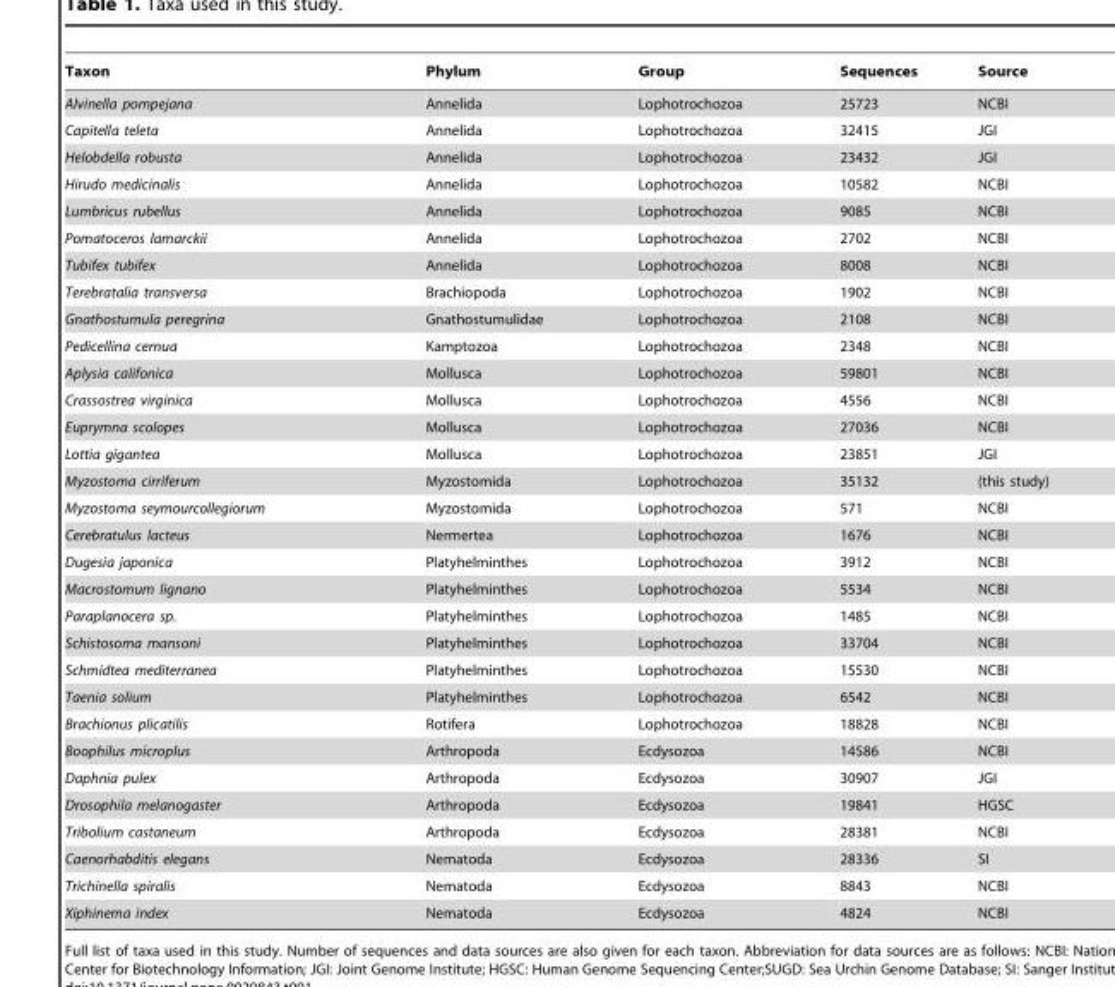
<table><thead><tr><td>Taxon</td><td>Phylum</td><td>Group</td><td>Sequences</td><td>Source</td></tr></thead><tbody><tr><td>Alvinella pompejana</td><td>Annelida</td><td>Lophotrochozoa</td><td>25723</td><td>NCBI</td></tr><tr><td>Capitella teleta</td><td>Annelida</td><td>Lophotrochozoa</td><td>32415</td><td>JGI</td></tr><tr><td>Helobdella robusta</td><td>Annelida</td><td>Lophotrochozoa</td><td>23432</td><td>JGI</td></tr><tr><td>Hirudo medicinalis</td><td>Annelida</td><td>Lophotrochozoa</td><td>10582</td><td>NCBI</td></tr><tr><td>Lumbricus rubellus</td><td>Annelida</td><td>Lophotrochozoa</td><td>9085</td><td>NCBI</td></tr><tr><td>Pomatoceros lamarckii</td><td>Annelida</td><td>Lophotrochozoa</td><td>2702</td><td>NCBI</td></tr><tr><td>Tubifex tubifex</td><td>Annelida</td><td>Lophotrochozoa</td><td>8008</td><td>NCBI</td></tr><tr><td>Terebratalia transversa</td><td>Brachiopoda</td><td>Lophotrochozoa</td><td>1902</td><td>NCBI</td></tr><tr><td>Gnathostumula peregrina</td><td>Gnathostumulidae</td><td>Lophotrochozoa</td><td>2108</td><td>NCBI</td></tr><tr><td>Pedicellina cernua</td><td>Kamptozoa</td><td>Lophotrochozoa</td><td>2348</td><td>NCBI</td></tr><tr><td>Aplysia califonica</td><td>Mollusca</td><td>Lophotrochozoa</td><td>59801</td><td>NCBI</td></tr><tr><td>Crassostrea virginica</td><td>Mollusca</td><td>Lophotrochozoa</td><td>4556</td><td>NCBI</td></tr><tr><td>Euprymna scolopes</td><td>Mollusca</td><td>Lophotrochozoa</td><td>27036</td><td>NCBI</td></tr><tr><td>Lottia gigantea</td><td>Mollusca</td><td>Lophotrochozoa</td><td>23851</td><td>JGI</td></tr><tr><td>Myzostoma cirriferum</td><td>Myzostomida</td><td>Lophotrochozoa</td><td>35132</td><td>(this study)</td></tr><tr><td>Myzostoma seymourcollegiorum</td><td>Myzostomida</td><td>Lophotrochozoa</td><td>571</td><td>NCBI</td></tr><tr><td>Cerebratulus lacteus</td><td>Nermertea</td><td>Lophotrochozoa</td><td>1676</td><td>NCBI</td></tr><tr><td>Dugesia japonica</td><td>Platyhelminthes</td><td>Lophotrochozoa</td><td>3912</td><td>NCBI</td></tr><tr><td>Macrostomum lignano</td><td>Platyhelminthes</td><td>Lophotrochozoa</td><td>5534</td><td>NCBI</td></tr><tr><td>Paraplanocera sp.</td><td>Platyhelminthes</td><td>Lophotrochozoa</td><td>1485</td><td>NCBI</td></tr><tr><td>Schistosoma mansoni</td><td>Platyhelminthes</td><td>Lophotrochozoa</td><td>33704</td><td>NCBI</td></tr><tr><td>Schmidtea mediterranea</td><td>Platyhelminthes</td><td>Lophotrochozoa</td><td>15530</td><td>NCBI</td></tr><tr><td>Taenia solium</td><td>Platyhelminthes</td><td>Lophotrochozoa</td><td>6542</td><td>NCBI</td></tr><tr><td>Brachionus plicatilis</td><td>Rotifera</td><td>Lophotrochozoa</td><td>18828</td><td>NCBI</td></tr><tr><td>Boophilus microplus</td><td>Arthropoda</td><td>Ecdysozoa</td><td>14586</td><td>NCBI</td></tr><tr><td>Daphnia pulex</td><td>Arthropoda</td><td>Ecdysozoa</td><td>30907</td><td>JGI</td></tr><tr><td>Drosophila melanogaster</td><td>Arthropoda</td><td>Ecdysozoa</td><td>19841</td><td>HGSC</td></tr><tr><td>Tribolium castaneum</td><td>Arthropoda</td><td>Ecdysozoa</td><td>28381</td><td>NCBI</td></tr><tr><td>Caenorhabditis elegans</td><td>Nematoda</td><td>Ecdysozoa</td><td>28336</td><td>SI</td></tr><tr><td>Trichinella spiralis</td><td>Nematoda</td><td>Ecdysozoa</td><td>8843</td><td>NCBI</td></tr><tr><td>Xiphinema index</td><td>Nematoda</td><td>Ecdysozoa</td><td>4824</td><td>NCBI</td></tr></tbody></table>